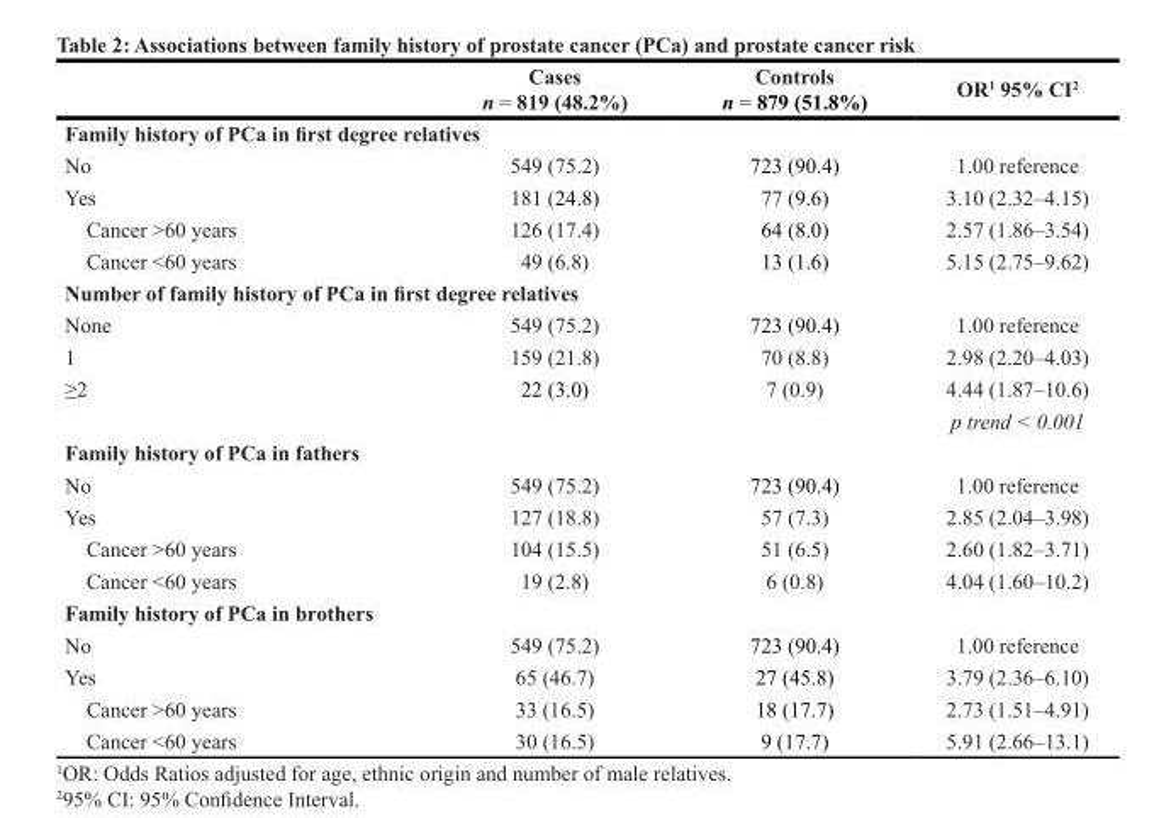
<table><thead><tr><td></td><td>Cases n = 819 (48.2%)</td><td>Controls n = 879 (51.8%)</td><td>OR<sup>1</sup> 95% CI<sup>2</sup></td></tr></thead><tbody><tr><td colspan="4">Family history of PCa in first degree relatives</td></tr><tr><td>No</td><td>549 (75.2)</td><td>723 (90.4)</td><td>1.00 reference</td></tr><tr><td>Yes</td><td>181 (24.8)</td><td>77 (9.6)</td><td>3.10 (2.32–4.15)</td></tr><tr><td>Cancer &gt;60 years</td><td>126 (17.4)</td><td>64 (8.0)</td><td>2.57 (1.86–3.54)</td></tr><tr><td>Cancer &lt;60 years</td><td>49 (6.8)</td><td>13 (1.6)</td><td>5.15 (2.75–9.62)</td></tr><tr><td colspan="4">Number of family history of PCa in first degree relatives</td></tr><tr><td>None</td><td>549 (75.2)</td><td>723 (90.4)</td><td>1.00 reference</td></tr><tr><td>1</td><td>159 (21.8)</td><td>70 (8.8)</td><td>2.98 (2.20–4.03)</td></tr><tr><td rowspan="2">≥2</td><td>22 (3.0)</td><td>7 (0.9)</td><td>4.44 (1.87–10.6)</td></tr><tr><td></td><td></td><td>p trend &lt; 0.001</td></tr><tr><td colspan="4">Family history of PCa in fathers</td></tr><tr><td>No</td><td>549 (75.2)</td><td>723 (90.4)</td><td>1.00 reference</td></tr><tr><td>Yes</td><td>127 (18.8)</td><td>57 (7.3)</td><td>2.85 (2.04–3.98)</td></tr><tr><td>Cancer &gt;60 years</td><td>104 (15.5)</td><td>51 (6.5)</td><td>2.60 (1.82–3.71)</td></tr><tr><td>Cancer &lt;60 years</td><td>19 (2.8)</td><td>6 (0.8)</td><td>4.04 (1.60–10.2)</td></tr><tr><td colspan="4">Family history of PCa in brothers</td></tr><tr><td>No</td><td>549 (75.2)</td><td>723 (90.4)</td><td>1.00 reference</td></tr><tr><td>Yes</td><td>65 (46.7)</td><td>27 (45.8)</td><td>3.79 (2.36–6.10)</td></tr><tr><td>Cancer &gt;60 years</td><td>33 (16.5)</td><td>18 (17.7)</td><td>2.73 (1.51–4.91)</td></tr><tr><td>Cancer &lt;60 years</td><td>30 (16.5)</td><td>9 (17.7)</td><td>5.91 (2.66–13.1)</td></tr></tbody></table>